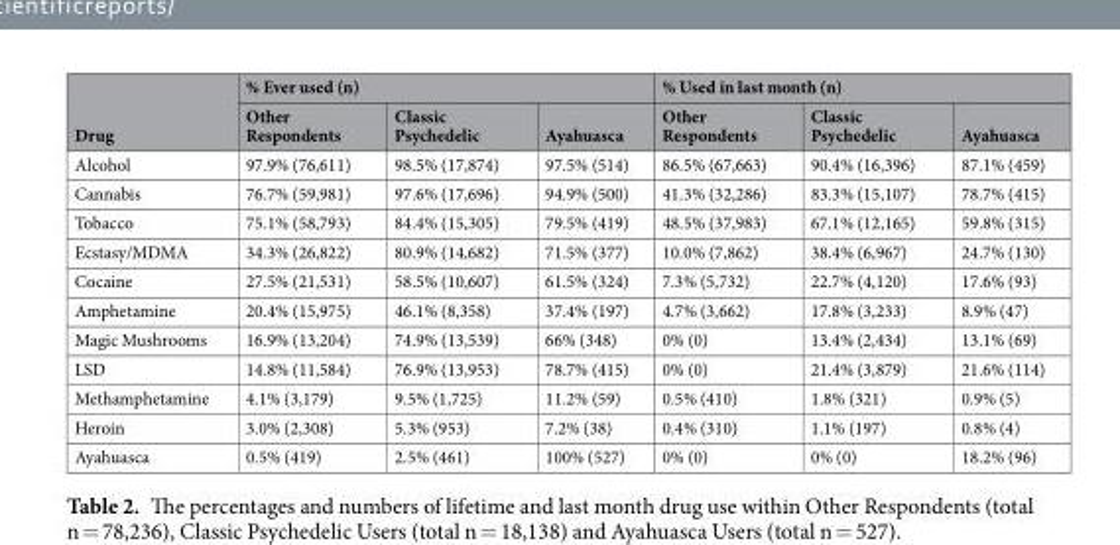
<table><thead><tr><td rowspan="2">Drug</td><td colspan="3">% Ever used (n)</td><td colspan="3">% Used in last month (n)</td></tr><tr><td>Other Respondents</td><td>Classic Psychedelic</td><td>Ayahuasca</td><td>Other Respondents</td><td>Classic Psychedelic</td><td>Ayahuasca</td></tr></thead><tbody><tr><td>Alcohol</td><td>97.9% (76,611)</td><td>98.5% (17,874)</td><td>97.5% (514)</td><td>86.5% (67,663)</td><td>90.4% (16,396)</td><td>87.1% (459)</td></tr><tr><td>Cannabis</td><td>76.7% (59,981)</td><td>97.6% (17,696)</td><td>94.9% (500)</td><td>41.3% (32,286)</td><td>83.3% (15,107)</td><td>78.7% (415)</td></tr><tr><td>Tobacco</td><td>75.1% (58,793)</td><td>84.4% (15,305)</td><td>79.5% (419)</td><td>48.5% (37,983)</td><td>67.1% (12,165)</td><td>59.8% (315)</td></tr><tr><td>Ecstasy/MDMA</td><td>34.3% (26,822)</td><td>80.9% (14,682)</td><td>71.5% (377)</td><td>10.0% (7,862)</td><td>38.4% (6,967)</td><td>24.7% (130)</td></tr><tr><td>Cocaine</td><td>27.5% (21,531)</td><td>58.5% (10,607)</td><td>61.5% (324)</td><td>7.3% (5,732)</td><td>22.7% (4,120)</td><td>17.6% (93)</td></tr><tr><td>Amphetamine</td><td>20.4% (15,975)</td><td>46.1% (8,358)</td><td>37.4% (197)</td><td>4.7% (3,662)</td><td>17.8% (3,233)</td><td>8.9% (47)</td></tr><tr><td>Magic Mushrooms</td><td>16.9% (13,204)</td><td>74.9% (13,539)</td><td>66% (348)</td><td>0% (0)</td><td>13.4% (2,434)</td><td>13.1% (69)</td></tr><tr><td>LSD</td><td>14.8% (11,584)</td><td>76.9% (13,953)</td><td>78.7% (415)</td><td>0% (0)</td><td>21.4% (3,879)</td><td>21.6% (114)</td></tr><tr><td>Methamphetamine</td><td>4.1% (3,179)</td><td>9.5% (1,725)</td><td>11.2% (59)</td><td>0.5% (410)</td><td>1.8% (321)</td><td>0.9% (5)</td></tr><tr><td>Heroin</td><td>3.0% (2,308)</td><td>5.3% (953)</td><td>7.2% (38)</td><td>0.4% (310)</td><td>1.1% (197)</td><td>0.8% (4)</td></tr><tr><td>Ayahuasca</td><td>0.5% (419)</td><td>2.5% (461)</td><td>100% (527)</td><td>0% (0)</td><td>0% (0)</td><td>18.2% (96)</td></tr></tbody></table>